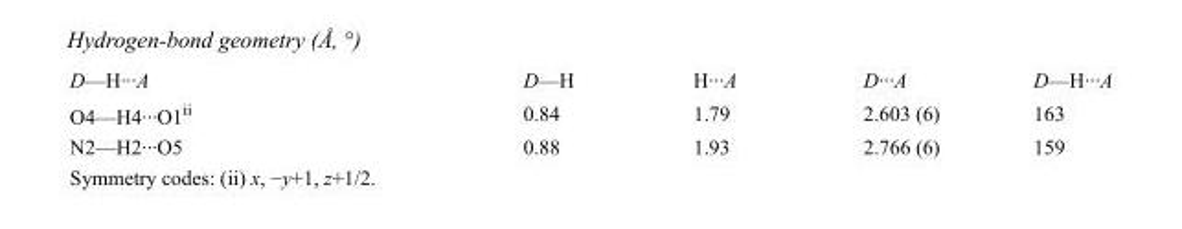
<table><tbody><tr><td>D—H···A</td><td>D—H</td><td>H···A</td><td>D···A</td><td>D—H···A</td></tr><tr><td>O4—H4···O1<sup>ii</sup></td><td>0.84</td><td>1.79</td><td>2.603 (6)</td><td>163</td></tr><tr><td>N2—H2···O5</td><td>0.88</td><td>1.93</td><td>2.766 (6)</td><td>159</td></tr></tbody></table>